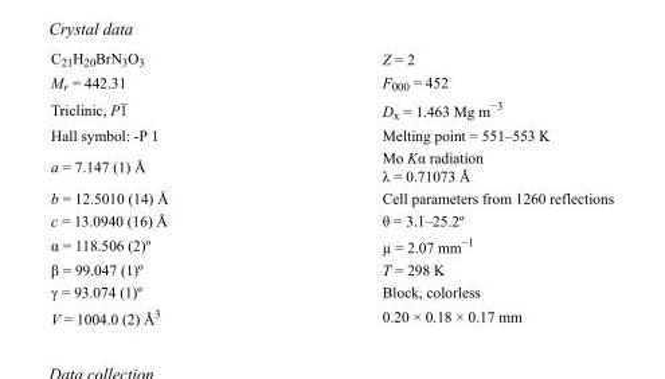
<table><tbody><tr><td>C<sub>21</sub>H<sub>20</sub>BrN<sub>3</sub>O<sub>3</sub></td><td>Z = 2</td></tr><tr><td>M<sub>r</sub> = 442.31</td><td>F000 = 452</td></tr><tr><td>Triclinic, P1</td><td>D<sub>x</sub> = 1.463 Mg m<sup>−3</sup></td></tr><tr><td>Hall symbol: -P 1</td><td>Melting point = 551–553 K</td></tr><tr><td>a = 7.147 (1) Å</td><td>Mo Kα radiation λ = 0.71073 Å</td></tr><tr><td>b = 12.5010 (14) Å</td><td>Cell parameters from 1260 reflections</td></tr><tr><td>c = 13.0940 (16) Å</td><td>θ = 3.1–25.2º</td></tr><tr><td>α = 118.506 (2)º</td><td>µ = 2.07 mm<sup>−1</sup></td></tr><tr><td>β = 99.047 (1)º</td><td>T = 298 K</td></tr><tr><td>γ = 93.074 (1)º</td><td>Block, colorless</td></tr><tr><td>V = 1004.0 (2) Å<sup>3</sup></td><td>0.20 × 0.18 × 0.17 mm</td></tr></tbody></table>